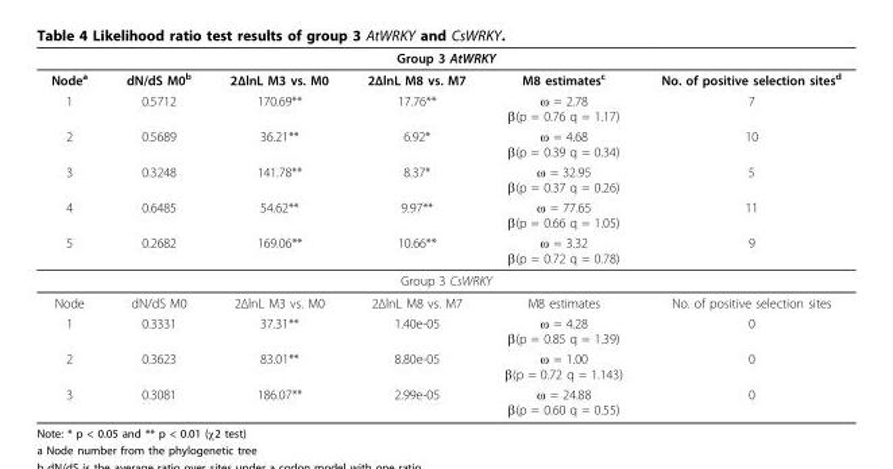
<table><thead><tr><td colspan="6">Group 3 AtWRKY</td></tr><tr><td>Node<sup>a</sup></td><td>dN/dS M0<sup>b</sup></td><td>2ΔlnL M3 vs. M0</td><td>2ΔlnL M8 vs. M7</td><td>M8 estimates<sup>c</sup></td><td>No. of positive selection sites<sup>d</sup></td></tr></thead><tbody><tr><td>1</td><td>0.5712</td><td>170.69**</td><td>17.76**</td><td>ω = 2.78 β(p = 0.76 q = 1.17)</td><td>7</td></tr><tr><td>2</td><td>0.5689</td><td>36.21**</td><td>6.92*</td><td>ω = 4.68 β(p = 0.39 q = 0.34)</td><td>10</td></tr><tr><td>3</td><td>0.3248</td><td>141.78**</td><td>8.37*</td><td>ω = 32.95 β(p = 0.37 q = 0.26)</td><td>5</td></tr><tr><td>4</td><td>0.6485</td><td>54.62**</td><td>9.97**</td><td>ω = 77.65 β(p = 0.66 q = 1.05)</td><td>11</td></tr><tr><td>5</td><td>0.2682</td><td>169.06**</td><td>10.66**</td><td>ω = 3.32 β(p = 0.72 q = 0.78)</td><td>9</td></tr><tr><td colspan="6">Group 3 CsWRKY</td></tr><tr><td>Node</td><td>dN/dS M0</td><td>2ΔlnL M3 vs. M0</td><td>2ΔlnL M8 vs. M7</td><td>M8 estimates</td><td>No. of positive selection sites</td></tr><tr><td>1</td><td>0.3331</td><td>37.31**</td><td>1.40e-05</td><td>ω = 4.28 β(p = 0.85 q = 1.39)</td><td>0</td></tr><tr><td>2</td><td>0.3623</td><td>83.01**</td><td>8.80e-05</td><td>ω = 1.00 β(p = 0.72 q = 1.143)</td><td>0</td></tr><tr><td>3</td><td>0.3081</td><td>186.07**</td><td>2.99e-05</td><td>ω = 24.88 β(p = 0.60 q = 0.55)</td><td>0</td></tr></tbody></table>